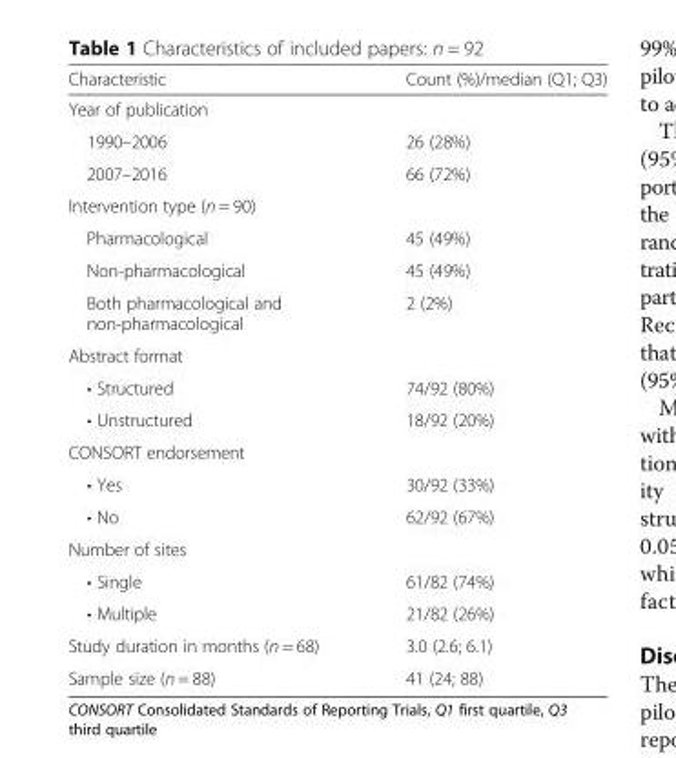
<table><thead><tr><td>Characteristic</td><td>Count (%)/median (Q1; Q3)</td></tr></thead><tbody><tr><td colspan="2">Year of publication</td></tr><tr><td>1990–2006</td><td>26 (28%)</td></tr><tr><td>2007–2016</td><td>66 (72%)</td></tr><tr><td colspan="2">Intervention type (n = 90)</td></tr><tr><td>Pharmacological</td><td>45 (49%)</td></tr><tr><td>Non-pharmacological</td><td>45 (49%)</td></tr><tr><td>Both pharmacological and non-pharmacological</td><td>2 (2%)</td></tr><tr><td colspan="2">Abstract format</td></tr><tr><td>• Structured</td><td>74/92 (80%)</td></tr><tr><td>• Unstructured</td><td>18/92 (20%)</td></tr><tr><td colspan="2">CONSORT endorsement</td></tr><tr><td>• Yes</td><td>30/92 (33%)</td></tr><tr><td>• No</td><td>62/92 (67%)</td></tr><tr><td colspan="2">Number of sites</td></tr><tr><td>• Single</td><td>61/82 (74%)</td></tr><tr><td>• Multiple</td><td>21/82 (26%)</td></tr><tr><td>Study duration in months (n = 68)</td><td>3.0 (2.6; 6.1)</td></tr><tr><td>Sample size (n = 88)</td><td>41 (24; 88)</td></tr></tbody></table>